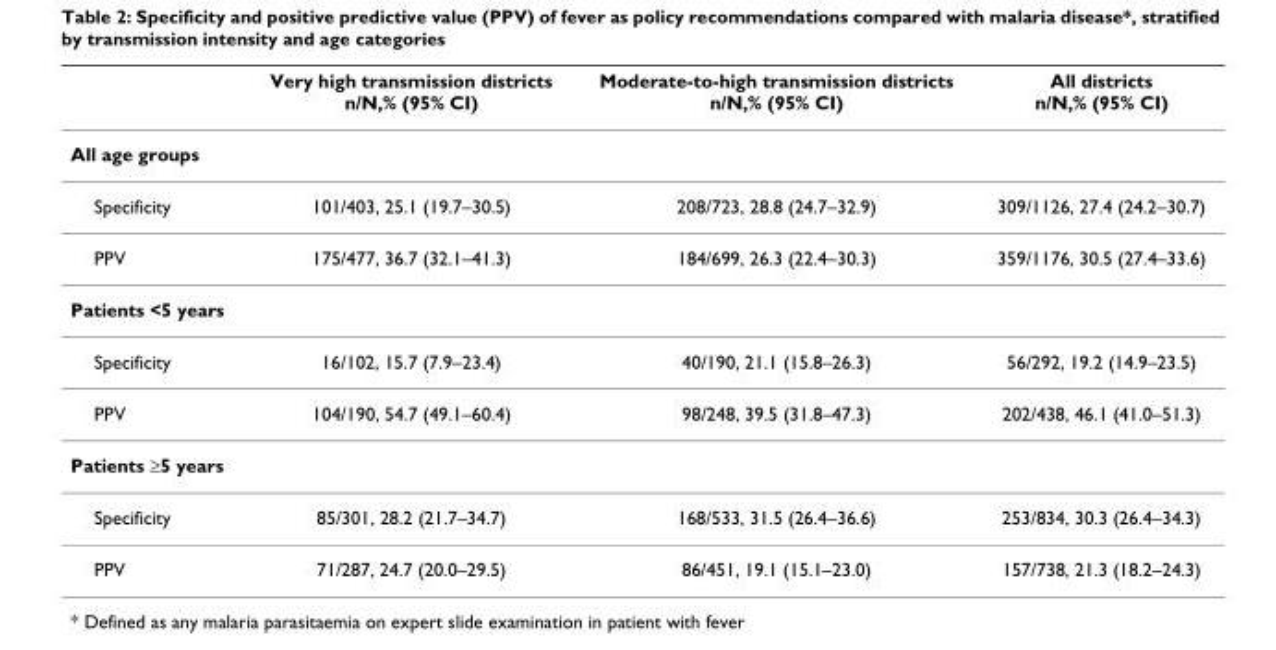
<table><thead><tr><td></td><td>Very high transmission districts n/N,% (95% CI)</td><td>Moderate-to-high transmission districts n/N,% (95% CI)</td><td>All districts n/N,% (95% CI)</td></tr></thead><tbody><tr><td colspan="4">All age groups</td></tr><tr><td>Specificity</td><td>101/403, 25.1 (19.7–30.5)</td><td>208/723, 28.8 (24.7–32.9)</td><td>309/1126, 27.4 (24.2–30.7)</td></tr><tr><td>PPV</td><td>175/477, 36.7 (32.1–41.3)</td><td>184/699, 26.3 (22.4–30.3)</td><td>359/1176, 30.5 (27.4–33.6)</td></tr><tr><td colspan="4">Patients &lt;5 years</td></tr><tr><td>Specificity</td><td>16/102, 15.7 (7.9–23.4)</td><td>40/190, 21.1 (15.8–26.3)</td><td>56/292, 19.2 (14.9–23.5)</td></tr><tr><td>PPV</td><td>104/190, 54.7 (49.1–60.4)</td><td>98/248, 39.5 (31.8–47.3)</td><td>202/438, 46.1 (41.0–51.3)</td></tr><tr><td colspan="4">Patients ≥5 years</td></tr><tr><td>Specificity</td><td>85/301, 28.2 (21.7–34.7)</td><td>168/533, 31.5 (26.4–36.6)</td><td>253/834, 30.3 (26.4–34.3)</td></tr><tr><td>PPV</td><td>71/287, 24.7 (20.0–29.5)</td><td>86/451, 19.1 (15.1–23.0)</td><td>157/738, 21.3 (18.2–24.3)</td></tr></tbody></table>